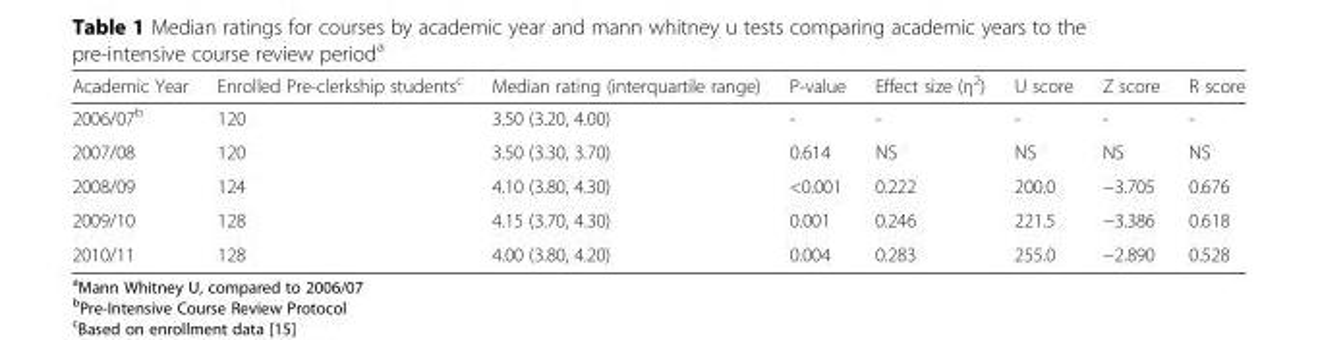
<table><thead><tr><td>Academic Year</td><td>Enrolled Pre-clerkship students<sup>c</sup></td><td>Median rating (interquartile range)</td><td>P-value</td><td>Effect size (η<sup>2</sup>)</td><td>U score</td><td>Z score</td><td>R score</td></tr></thead><tbody><tr><td>2006/07<sup>b</sup></td><td>120</td><td>3.50 (3.20, 4.00)</td><td>-</td><td>-</td><td>-</td><td>-</td><td>-</td></tr><tr><td>2007/08</td><td>120</td><td>3.50 (3.30, 3.70)</td><td>0.614</td><td>NS</td><td>NS</td><td>NS</td><td>NS</td></tr><tr><td>2008/09</td><td>124</td><td>4.10 (3.80, 4.30)</td><td>&lt;0.001</td><td>0.222</td><td>200.0</td><td>−3.705</td><td>0.676</td></tr><tr><td>2009/10</td><td>128</td><td>4.15 (3.70, 4.30)</td><td>0.001</td><td>0.246</td><td>221.5</td><td>−3.386</td><td>0.618</td></tr><tr><td>2010/11</td><td>128</td><td>4.00 (3.80, 4.20)</td><td>0.004</td><td>0.283</td><td>255.0</td><td>−2.890</td><td>0.528</td></tr></tbody></table>